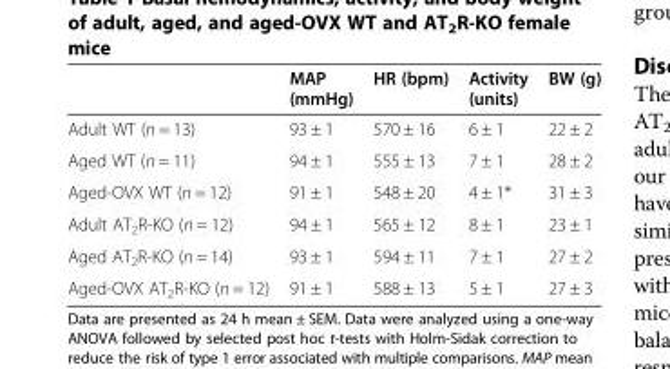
<table><thead><tr><td></td><td>MAP (mmHg)</td><td>HR (bpm)</td><td>Activity (units)</td><td>BW (g)</td></tr></thead><tbody><tr><td>Adult WT (n = 13)</td><td>93 ± 1</td><td>570 ± 16</td><td>6 ± 1</td><td>22 ± 2</td></tr><tr><td>Aged WT (n = 11)</td><td>94 ± 1</td><td>555 ± 13</td><td>7 ± 1</td><td>28 ± 2</td></tr><tr><td>Aged-OVX WT (n = 12)</td><td>91 ± 1</td><td>548 ± 20</td><td>4 ± 1*</td><td>31 ± 3</td></tr><tr><td>Adult AT<sub>2</sub>R-KO (n = 12)</td><td>94 ± 1</td><td>565 ± 12</td><td>8 ± 1</td><td>23 ± 1</td></tr><tr><td>Aged AT<sub>2</sub>R-KO (n = 14)</td><td>93 ± 1</td><td>594 ± 11</td><td>7 ± 1</td><td>27 ± 2</td></tr><tr><td>Aged-OVX AT<sub>2</sub>R-KO (n = 12)</td><td>91 ± 1</td><td>588 ± 13</td><td>5 ± 1</td><td>27 ± 3</td></tr></tbody></table>